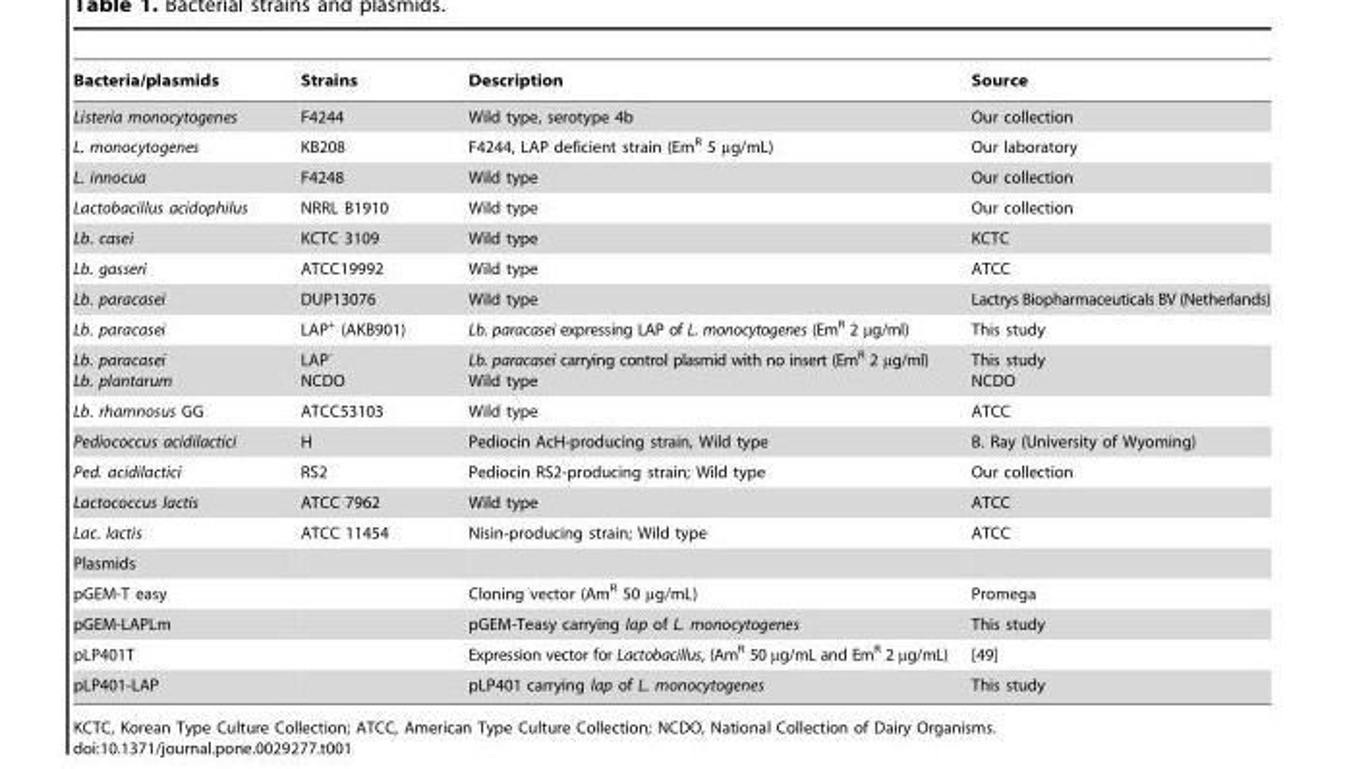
<table><thead><tr><td>Bacteria/plasmids</td><td>Strains</td><td>Description</td><td>Source</td></tr></thead><tbody><tr><td>Listeria monocytogenes</td><td>F4244</td><td>Wild type, serotype 4b</td><td>Our collection</td></tr><tr><td>L. monocytogenes</td><td>KB208</td><td>F4244, LAP deficient strain (Em<sup>R</sup> 5 µg/mL)</td><td>Our laboratory</td></tr><tr><td>L. innocua</td><td>F4248</td><td>Wild type</td><td>Our collection</td></tr><tr><td>Lactobacillus acidophilus</td><td>NRRL B1910</td><td>Wild type</td><td>Our collection</td></tr><tr><td>Lb. casei</td><td>KCTC 3109</td><td>Wild type</td><td>KCTC</td></tr><tr><td>Lb. gasseri</td><td>ATCC19992</td><td>Wild type</td><td>ATCC</td></tr><tr><td>Lb. paracasei</td><td>DUP13076</td><td>Wild type</td><td>Lactrys Biopharmaceuticals BV (Netherlands)</td></tr><tr><td>Lb. paracasei</td><td>LAP<sup>+</sup> (AKB901)</td><td>Lb. paracasei expressing LAP of L. monocytogenes (Em<sup>R</sup> 2 µg/ml)</td><td>This study</td></tr><tr><td>Lb. paracasei Lb. plantarum</td><td>LAP<sup>-</sup> NCDO</td><td>Lb. paracasei carrying control plasmid with no insert (Em<sup>R</sup> 2 µg/ml) Wild type</td><td>This study NCDO</td></tr><tr><td>Lb. rhamnosus GG</td><td>ATCC53103</td><td>Wild type</td><td>ATCC</td></tr><tr><td>Pediococcus acidilactici</td><td>H</td><td>Pediocin AcH-producing strain, Wild type</td><td>B. Ray (University of Wyoming)</td></tr><tr><td>Ped. acidilactici</td><td>RS2</td><td>Pediocin RS2-producing strain; Wild type</td><td>Our collection</td></tr><tr><td>Lactococcus lactis</td><td>ATCC 7962</td><td>Wild type</td><td>ATCC</td></tr><tr><td>Lac. lactis</td><td>ATCC 11454</td><td>Nisin-producing strain; Wild type</td><td>ATCC</td></tr><tr><td colspan="4">Plasmids</td></tr><tr><td>pGEM-T easy</td><td></td><td>Cloning vector (Am<sup>R</sup> 50 µg/mL)</td><td>Promega</td></tr><tr><td>pGEM-LAPLm</td><td></td><td>pGEM-Teasy carrying lap of L. monocytogenes</td><td>This study</td></tr><tr><td>pLP401T</td><td></td><td>Expression vector for Lactobacillus, (Am<sup>R</sup> 50 µg/mL and Em<sup>R</sup> 2 µg/mL)</td><td>[49]</td></tr><tr><td>pLP401-LAP</td><td></td><td>pLP401 carrying lap of L. monocytogenes</td><td>This study</td></tr></tbody></table>